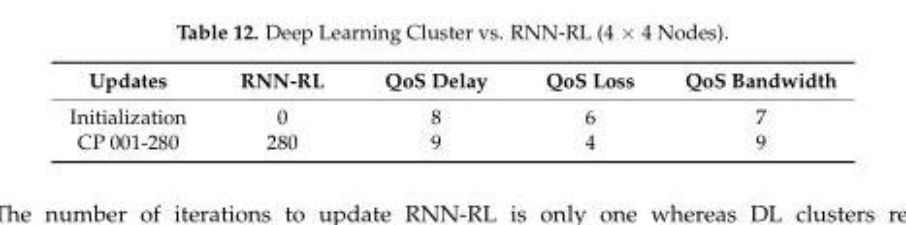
<table><thead><tr><td>Updates</td><td>RNN-RL</td><td>QoS Delay</td><td>QoS Loss</td><td>QoS Bandwidth</td></tr></thead><tbody><tr><td>Initialization</td><td>0</td><td>8</td><td>6</td><td>7</td></tr><tr><td>CP 001-280</td><td>280</td><td>9</td><td>4</td><td>9</td></tr></tbody></table>